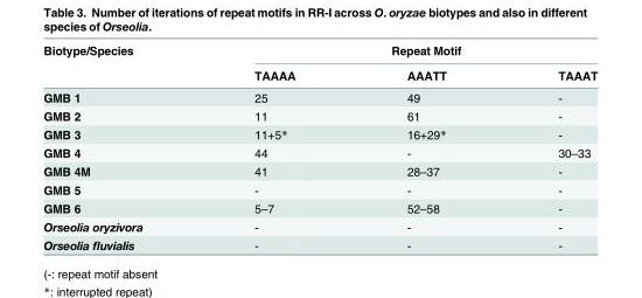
<table><thead><tr><td rowspan="2">Biotype/Species</td><td colspan="3">Repeat Motif</td></tr><tr><td>TAAAA</td><td>AAATT</td><td>TAAAT</td></tr></thead><tbody><tr><td>GMB 1</td><td>25</td><td>49</td><td>-</td></tr><tr><td>GMB 2</td><td>11</td><td>61</td><td>-</td></tr><tr><td>GMB 3</td><td>11+5*</td><td>16+29*</td><td>-</td></tr><tr><td>GMB 4</td><td>44</td><td>-</td><td>30–33</td></tr><tr><td>GMB 4M</td><td>41</td><td>28–37</td><td>-</td></tr><tr><td>GMB 5</td><td>-</td><td>-</td><td>-</td></tr><tr><td>GMB 6</td><td>5–7</td><td>52–58</td><td>-</td></tr><tr><td>Orseolia oryzivora</td><td>-</td><td>-</td><td>-</td></tr><tr><td>Orseolia fluvialis</td><td>-</td><td>-</td><td>-</td></tr></tbody></table>